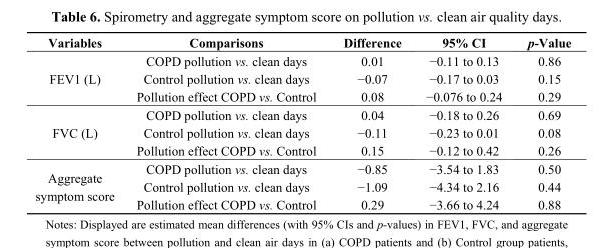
<table><thead><tr><td>Variables</td><td>Comparisons</td><td>Difference</td><td>95% CI</td><td>p-Value</td></tr></thead><tbody><tr><td rowspan="3">FEV1 (L)</td><td>COPD pollution vs. clean days</td><td>0.01</td><td>−0.11 to 0.13</td><td>0.86</td></tr><tr><td>Control pollution vs. clean days</td><td>−0.07</td><td>−0.17 to 0.03</td><td>0.15</td></tr><tr><td>Pollution effect COPD vs. Control</td><td>0.08</td><td>−0.076 to 0.24</td><td>0.29</td></tr><tr><td rowspan="3">FVC (L)</td><td>COPD pollution vs. clean days</td><td>0.04</td><td>−0.18 to 0.26</td><td>0.69</td></tr><tr><td>Control pollution vs. clean days</td><td>−0.11</td><td>−0.23 to 0.01</td><td>0.08</td></tr><tr><td>Pollution effect COPD vs. Control</td><td>0.15</td><td>−0.12 to 0.42</td><td>0.26</td></tr><tr><td rowspan="3">Aggregate symptom score</td><td>COPD pollution vs. clean days</td><td>−0.85</td><td>−3.54 to 1.83</td><td>0.50</td></tr><tr><td>Control pollution vs. clean days</td><td>−1.09</td><td>−4.34 to 2.16</td><td>0.44</td></tr><tr><td>Pollution effect COPD vs. Control</td><td>0.29</td><td>−3.66 to 4.24</td><td>0.88</td></tr></tbody></table>